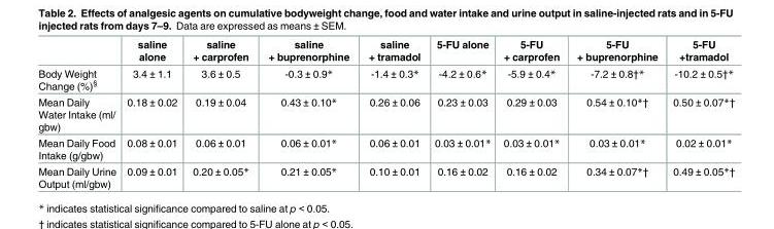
<table><thead><tr><td></td><td>saline alone</td><td>saline + carprofen</td><td>saline + buprenorphine</td><td>saline + tramadol</td><td>5-FU alone</td><td>5-FU + carprofen</td><td>5-FU + buprenorphine</td><td>5-FU +tramadol</td></tr></thead><tbody><tr><td>Body Weight Change (%)<sup>§</sup></td><td>3.4 ± 1.1</td><td>3.6 ± 0.5</td><td>-0.3 ± 0.9*</td><td>-1.4 ± 0.3*</td><td>-4.2 ± 0.6*</td><td>-5.9 ± 0.4*</td><td>-7.2 ± 0.8†*</td><td>-10.2 ± 0.5†*</td></tr><tr><td>Mean Daily Water Intake (ml/ gbw)</td><td>0.18 ± 0.02</td><td>0.19 ± 0.04</td><td>0.43 ± 0.10*</td><td>0.26 ± 0.06</td><td>0.23 ± 0.03</td><td>0.29 ± 0.03</td><td>0.54 ± 0.10*†</td><td>0.50 ± 0.07*†</td></tr><tr><td>Mean Daily Food Intake (g/gbw)</td><td>0.08 ± 0.01</td><td>0.06 ± 0.01</td><td>0.06 ± 0.01*</td><td>0.06 ± 0.01</td><td>0.03 ± 0.01*</td><td>0.03 ± 0.01*</td><td>0.03 ± 0.01*</td><td>0.02 ± 0.01*</td></tr><tr><td>Mean Daily Urine Output (ml/gbw)</td><td>0.09 ± 0.01</td><td>0.20 ± 0.05*</td><td>0.21 ± 0.05*</td><td>0.10 ± 0.01</td><td>0.16 ± 0.02</td><td>0.16 ± 0.02</td><td>0.34 ± 0.07*†</td><td>0.49 ± 0.05*†</td></tr></tbody></table>